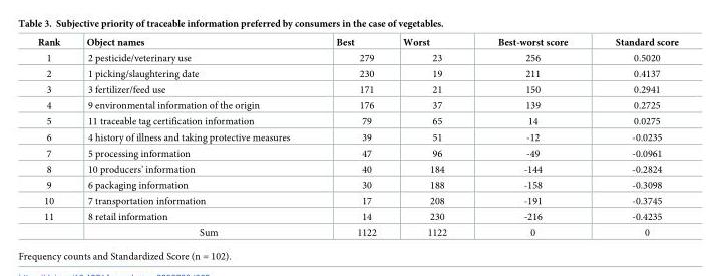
<table><thead><tr><td>Rank</td><td>Object names</td><td>Best</td><td>Worst</td><td>Best-worst score</td><td>Standard score</td></tr></thead><tbody><tr><td>1</td><td>2 pesticide/veterinary use</td><td>279</td><td>23</td><td>256</td><td>0.5020</td></tr><tr><td>2</td><td>1 picking/slaughtering date</td><td>230</td><td>19</td><td>211</td><td>0.4137</td></tr><tr><td>3</td><td>3 fertilizer/feed use</td><td>171</td><td>21</td><td>150</td><td>0.2941</td></tr><tr><td>4</td><td>9 environmental information of the origin</td><td>176</td><td>37</td><td>139</td><td>0.2725</td></tr><tr><td>5</td><td>11 traceable tag certification information</td><td>79</td><td>65</td><td>14</td><td>0.0275</td></tr><tr><td>6</td><td>4 history of illness and taking protective measures</td><td>39</td><td>51</td><td>-12</td><td>-0.0235</td></tr><tr><td>7</td><td>5 processing information</td><td>47</td><td>96</td><td>-49</td><td>-0.0961</td></tr><tr><td>8</td><td>10 producers’ information</td><td>40</td><td>184</td><td>-144</td><td>-0.2824</td></tr><tr><td>9</td><td>6 packaging information</td><td>30</td><td>188</td><td>-158</td><td>-0.3098</td></tr><tr><td>10</td><td>7 transportation information</td><td>17</td><td>208</td><td>-191</td><td>-0.3745</td></tr><tr><td rowspan="2">11</td><td>8 retail information</td><td>14</td><td>230</td><td>-216</td><td>-0.4235</td></tr><tr><td>Sum</td><td>1122</td><td>1122</td><td>0</td><td>0</td></tr></tbody></table>